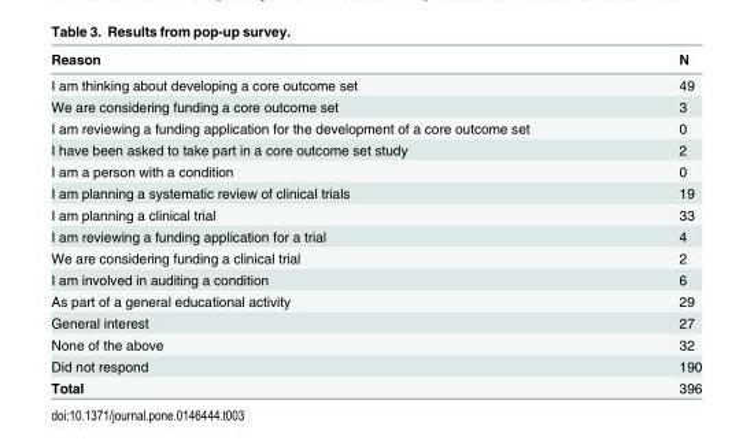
<table><thead><tr><td>Reason</td><td>N</td></tr></thead><tbody><tr><td>I am thinking about developing a core outcome set</td><td>49</td></tr><tr><td>We are considering funding a core outcome set</td><td>3</td></tr><tr><td>I am reviewing a funding application for the development of a core outcome set</td><td>0</td></tr><tr><td>I have been asked to take part in a core outcome set study</td><td>2</td></tr><tr><td>I am a person with a condition</td><td>0</td></tr><tr><td>I am planning a systematic review of clinical trials</td><td>19</td></tr><tr><td>I am planning a clinical trial</td><td>33</td></tr><tr><td>I am reviewing a funding application for a trial</td><td>4</td></tr><tr><td>We are considering funding a clinical trial</td><td>2</td></tr><tr><td>I am involved in auditing a condition</td><td>6</td></tr><tr><td>As part of a general educational activity</td><td>29</td></tr><tr><td>General interest</td><td>27</td></tr><tr><td>None of the above</td><td>32</td></tr><tr><td>Did not respond</td><td>190</td></tr><tr><td>Total</td><td>396</td></tr></tbody></table>